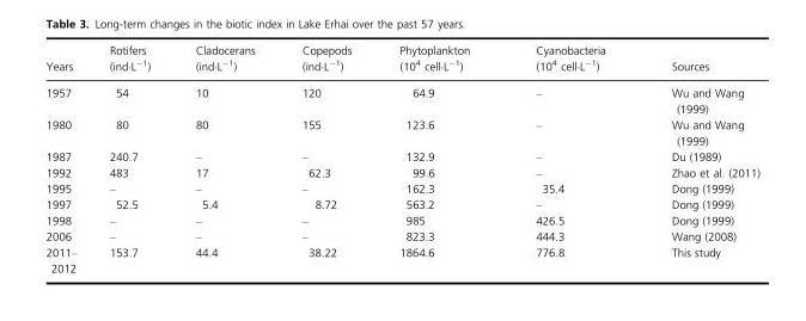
<table><thead><tr><td>Years</td><td>Rotifers (ind·L<sup>−1</sup>)</td><td>Cladocerans (ind·L<sup>−1</sup>)</td><td>Copepods (ind·L<sup>−1</sup>)</td><td>Phytoplankton (10<sup>4</sup> cell·L<sup>−1</sup>)</td><td>Cyanobacteria (10<sup>4</sup> cell·L<sup>−1</sup>)</td><td>Sources</td></tr></thead><tbody><tr><td>1957</td><td>54</td><td>10</td><td>120</td><td>64.9</td><td>–</td><td>Wu and Wang (1999)</td></tr><tr><td>1980</td><td>80</td><td>80</td><td>155</td><td>123.6</td><td>–</td><td>Wu and Wang (1999)</td></tr><tr><td>1987</td><td>240.7</td><td>–</td><td>–</td><td>132.9</td><td>–</td><td>Du (1989)</td></tr><tr><td>1992</td><td>483</td><td>17</td><td>62.3</td><td>99.6</td><td>–</td><td>Zhao et al. (2011)</td></tr><tr><td>1995</td><td>–</td><td>–</td><td>–</td><td>162.3</td><td>35.4</td><td>Dong (1999)</td></tr><tr><td>1997</td><td>52.5</td><td>5.4</td><td>8.72</td><td>563.2</td><td>–</td><td>Dong (1999)</td></tr><tr><td>1998</td><td>–</td><td>–</td><td>–</td><td>985</td><td>426.5</td><td>Dong (1999)</td></tr><tr><td>2006</td><td>–</td><td>–</td><td>–</td><td>823.3</td><td>444.3</td><td>Wang (2008)</td></tr><tr><td>2011– 2012</td><td>153.7</td><td>44.4</td><td>38.22</td><td>1864.6</td><td>776.8</td><td>This study</td></tr></tbody></table>